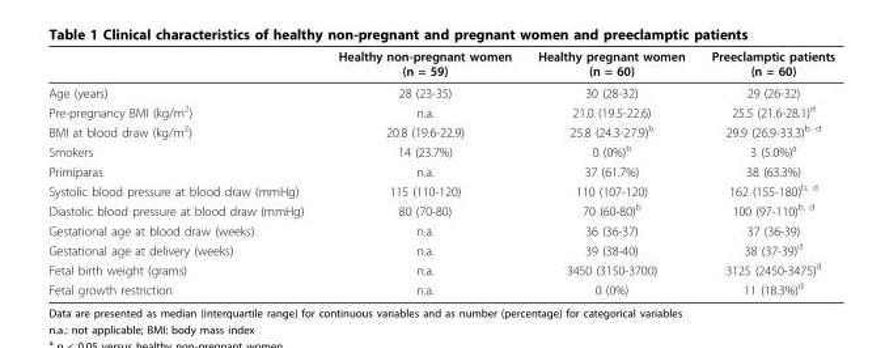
<table><thead><tr><td></td><td>Healthy non-pregnant women (n = 59)</td><td>Healthy pregnant women (n = 60)</td><td>Preeclamptic patients (n = 60)</td></tr></thead><tbody><tr><td>Age (years)</td><td>28 (23-35)</td><td>30 (28-32)</td><td>29 (26-32)</td></tr><tr><td>Pre-pregnancy BMI (kg/m<sup>2</sup>)</td><td>n.a.</td><td>21.0 (19.5-22.6)</td><td>25.5 (21.6-28.1)<sup>d</sup></td></tr><tr><td>BMI at blood draw (kg/m<sup>2</sup>)</td><td>20.8 (19.6-22.9)</td><td>25.8 (24.3-27.9)<sup>b</sup></td><td>29.9 (26.9-33.3)<sup>b, d</sup></td></tr><tr><td>Smokers</td><td>14 (23.7%)</td><td>0 (0%)<sup>b</sup></td><td>3 (5.0%)<sup>a</sup></td></tr><tr><td>Primiparas</td><td>n.a.</td><td>37 (61.7%)</td><td>38 (63.3%)</td></tr><tr><td>Systolic blood pressure at blood draw (mmHg)</td><td>115 (110-120)</td><td>110 (107-120)</td><td>162 (155-180)<sup>b, d</sup></td></tr><tr><td>Diastolic blood pressure at blood draw (mmHg)</td><td>80 (70-80)</td><td>70 (60-80)<sup>b</sup></td><td>100 (97-110)<sup>b, d</sup></td></tr><tr><td>Gestational age at blood draw (weeks)</td><td>n.a.</td><td>36 (36-37)</td><td>37 (36-39)</td></tr><tr><td>Gestational age at delivery (weeks)</td><td>n.a.</td><td>39 (38-40)</td><td>38 (37-39)<sup>d</sup></td></tr><tr><td>Fetal birth weight (grams)</td><td>n.a.</td><td>3450 (3150-3700)</td><td>3125 (2450-3475)<sup>d</sup></td></tr><tr><td>Fetal growth restriction</td><td>n.a.</td><td>0 (0%)</td><td>11 (18.3%)<sup>d</sup></td></tr></tbody></table>